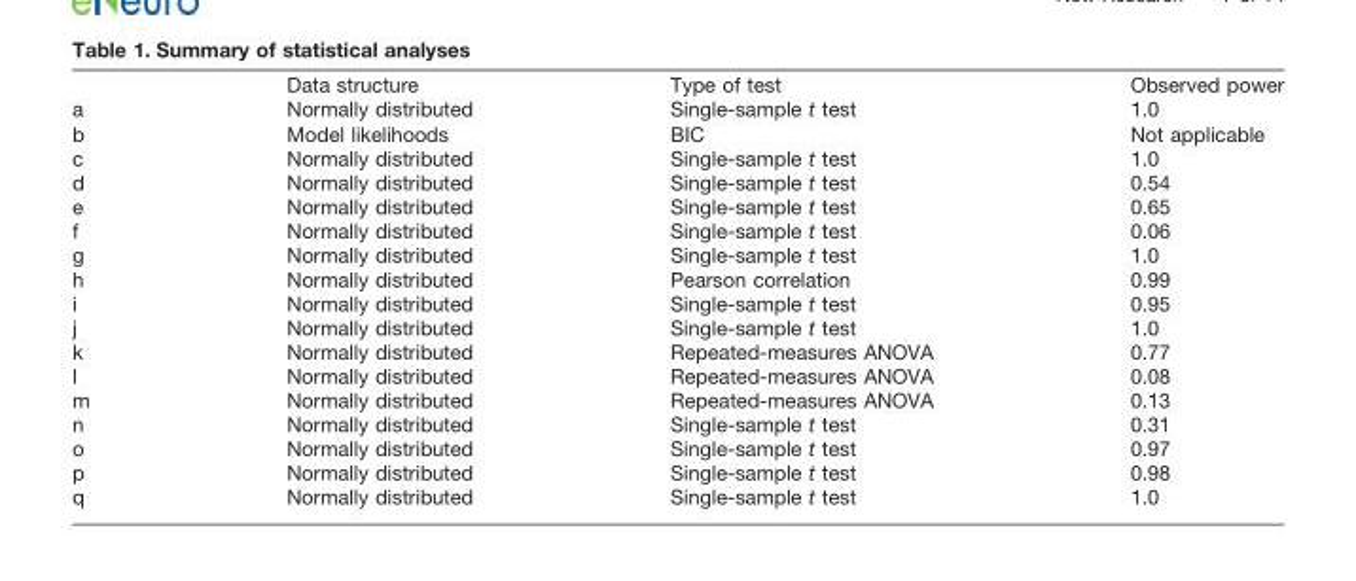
<table><thead><tr><td></td><td>Data structure</td><td>Type of test</td><td>Observed power</td></tr></thead><tbody><tr><td>a</td><td>Normally distributed</td><td>Single-sample t test</td><td>1.0</td></tr><tr><td>b</td><td>Model likelihoods</td><td>BIC</td><td>Not applicable</td></tr><tr><td>c</td><td>Normally distributed</td><td>Single-sample t test</td><td>1.0</td></tr><tr><td>d</td><td>Normally distributed</td><td>Single-sample t test</td><td>0.54</td></tr><tr><td>e</td><td>Normally distributed</td><td>Single-sample t test</td><td>0.65</td></tr><tr><td>f</td><td>Normally distributed</td><td>Single-sample t test</td><td>0.06</td></tr><tr><td>g</td><td>Normally distributed</td><td>Single-sample t test</td><td>1.0</td></tr><tr><td>h</td><td>Normally distributed</td><td>Pearson correlation</td><td>0.99</td></tr><tr><td>i</td><td>Normally distributed</td><td>Single-sample t test</td><td>0.95</td></tr><tr><td>j</td><td>Normally distributed</td><td>Single-sample t test</td><td>1.0</td></tr><tr><td>k</td><td>Normally distributed</td><td>Repeated-measures ANOVA</td><td>0.77</td></tr><tr><td>l</td><td>Normally distributed</td><td>Repeated-measures ANOVA</td><td>0.08</td></tr><tr><td>m</td><td>Normally distributed</td><td>Repeated-measures ANOVA</td><td>0.13</td></tr><tr><td>n</td><td>Normally distributed</td><td>Single-sample t test</td><td>0.31</td></tr><tr><td>o</td><td>Normally distributed</td><td>Single-sample t test</td><td>0.97</td></tr><tr><td>p</td><td>Normally distributed</td><td>Single-sample t test</td><td>0.98</td></tr><tr><td>q</td><td>Normally distributed</td><td>Single-sample t test</td><td>1.0</td></tr></tbody></table>